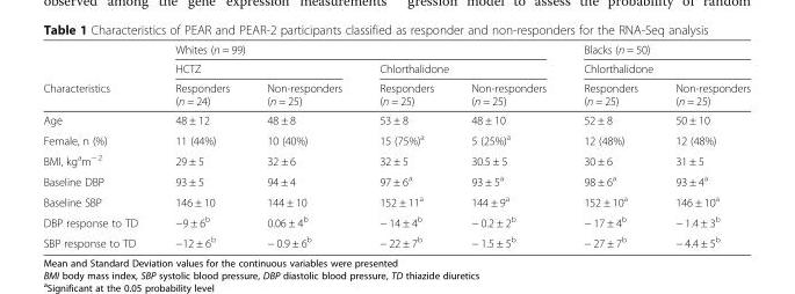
<table><thead><tr><td rowspan="3">Characteristics</td><td colspan="4">Whites (n = 99)</td><td rowspan="2" colspan="2">Blacks (n = 50) Chlorthalidone</td></tr><tr><td colspan="2">HCTZ</td><td colspan="2">Chlorthalidone</td></tr><tr><td>Responders (n = 24)</td><td>Non-responders (n = 25)</td><td>Responders (n = 25)</td><td>Non-responders (n = 25)</td><td>Responders (n = 25)</td><td>Non-responders (n = 25)</td></tr></thead><tbody><tr><td>Age</td><td>48 ± 12</td><td>48 ± 8</td><td>53 ± 8</td><td>48 ± 10</td><td>52 ± 8</td><td>50 ± 10</td></tr><tr><td>Female, n (%)</td><td>11 (44%)</td><td>10 (40%)</td><td>15 (75%)<sup>a</sup></td><td>5 (25%)<sup>a</sup></td><td>12 (48%)</td><td>12 (48%)</td></tr><tr><td>BMI, kg<sup>a</sup>m<sup>− 2</sup></td><td>29 ± 5</td><td>32 ± 6</td><td>32 ± 5</td><td>30.5 ± 5</td><td>30 ± 6</td><td>31 ± 5</td></tr><tr><td>Baseline DBP</td><td>93 ± 5</td><td>94 ± 4</td><td>97 ± 6<sup>a</sup></td><td>93 ± 5<sup>a</sup></td><td>98 ± 6<sup>a</sup></td><td>93 ± 4<sup>a</sup></td></tr><tr><td>Baseline SBP</td><td>146 ± 10</td><td>144 ± 10</td><td>152 ± 11<sup>a</sup></td><td>144 ± 9<sup>a</sup></td><td>152 ± 10<sup>a</sup></td><td>146 ± 10<sup>a</sup></td></tr><tr><td>DBP response to TD</td><td>−9 ± 6<sup>b</sup></td><td>0.06 ± 4<sup>b</sup></td><td>− 14 ± 4<sup>b</sup></td><td>− 0.2 ± 2<sup>b</sup></td><td>− 17 ± 4<sup>b</sup></td><td>− 1.4 ± 3<sup>b</sup></td></tr><tr><td>SBP response to TD</td><td>−12 ± 6<sup>b</sup></td><td>− 0.9 ± 6<sup>b</sup></td><td>− 22 ± 7<sup>b</sup></td><td>− 1.5 ± 5<sup>b</sup></td><td>− 27 ± 7<sup>b</sup></td><td>− 4.4 ± 5<sup>b</sup></td></tr></tbody></table>